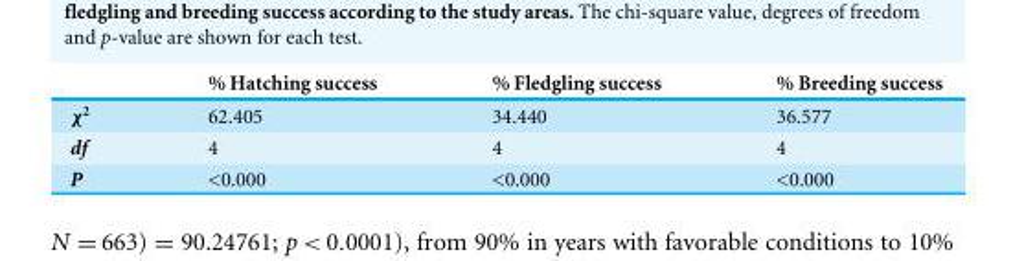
<table><thead><tr><td></td><td>% Hatching success</td><td>% Fledgling success</td><td>% Breeding success</td></tr></thead><tbody><tr><td>χ<sup>2</sup></td><td>62.405</td><td>34.440</td><td>36.577</td></tr><tr><td>df</td><td>4</td><td>4</td><td>4</td></tr><tr><td>P</td><td>&lt;0.000</td><td>&lt;0.000</td><td>&lt;0.000</td></tr></tbody></table>